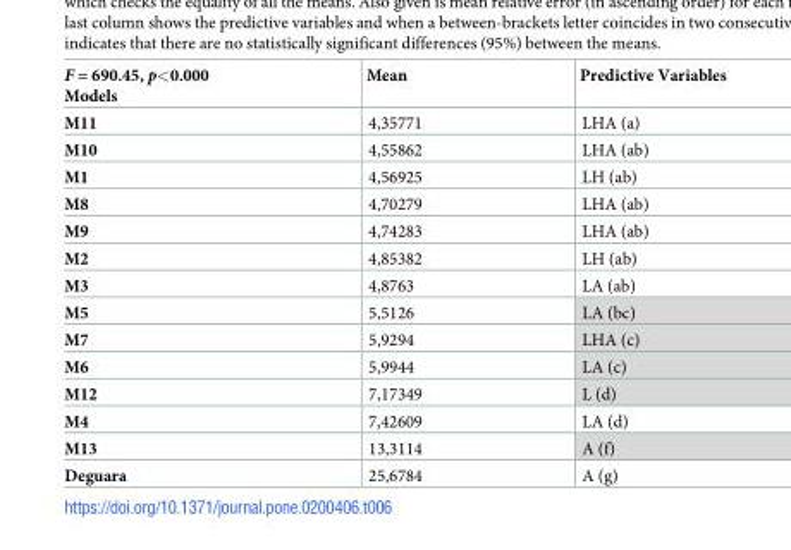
<table><thead><tr><td>F = 690.45, p&lt;0.000 Models</td><td>Mean</td><td>Predictive Variables</td></tr></thead><tbody><tr><td>M11</td><td>4,35771</td><td>LHA (a)</td></tr><tr><td>M10</td><td>4,55862</td><td>LHA (ab)</td></tr><tr><td>M1</td><td>4,56925</td><td>LH (ab)</td></tr><tr><td>M8</td><td>4,70279</td><td>LHA (ab)</td></tr><tr><td>M9</td><td>4,74283</td><td>LHA (ab)</td></tr><tr><td>M2</td><td>4,85382</td><td>LH (ab)</td></tr><tr><td>M3</td><td>4,8763</td><td>LA (ab)</td></tr><tr><td>M5</td><td>5,5126</td><td>LA (bc)</td></tr><tr><td>M7</td><td>5,9294</td><td>LHA (c)</td></tr><tr><td>M6</td><td>5,9944</td><td>LA (c)</td></tr><tr><td>M12</td><td>7,17349</td><td>L (d)</td></tr><tr><td>M4</td><td>7,42609</td><td>LA (d)</td></tr><tr><td>M13</td><td>13,3114</td><td>A (f)</td></tr><tr><td>Deguara</td><td>25,6784</td><td>A (g)</td></tr></tbody></table>